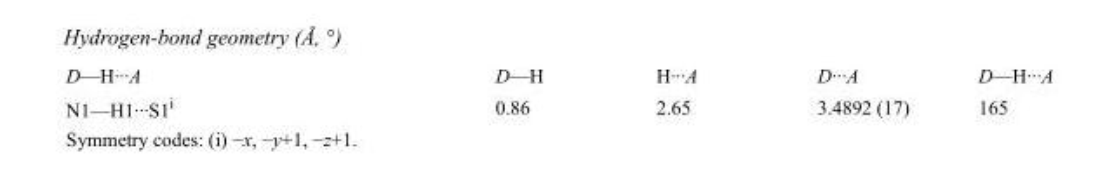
<table><tbody><tr><td>D—H···A</td><td>D—H</td><td>H···A</td><td>D···A</td><td>D—H···A</td></tr><tr><td>N1—H1···S1<sup>i</sup></td><td>0.86</td><td>2.65</td><td>3.4892 (17)</td><td>165</td></tr></tbody></table>